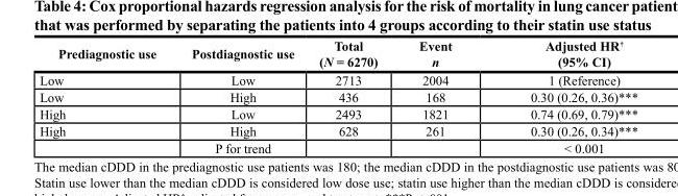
<table><thead><tr><td>Prediagnostic use</td><td>Postdiagnostic use</td><td>total (N = 6270)</td><td>event n</td><td>Adjusted Hr<sup>†</sup> (95% cI)</td></tr></thead><tbody><tr><td>Low</td><td>Low</td><td>2713</td><td>2004</td><td>1 (Reference)</td></tr><tr><td>Low</td><td>High</td><td>436</td><td>168</td><td>0.30 (0.26, 0.36)***</td></tr><tr><td>High</td><td>Low</td><td>2493</td><td>1821</td><td>0.74 (0.69, 0.79)***</td></tr><tr><td rowspan="2">High</td><td>High</td><td>628</td><td>261</td><td>0.30 (0.26, 0.34)***</td></tr><tr><td>P for trend</td><td></td><td></td><td>&lt; 0.001</td></tr></tbody></table>